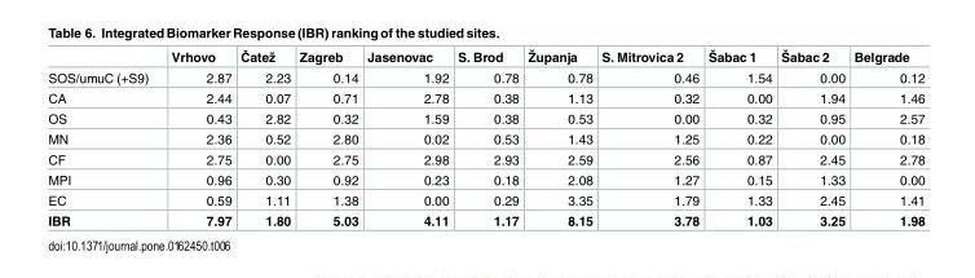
<table><thead><tr><td></td><td>Vrhovo</td><td>Čatež</td><td>Zagreb</td><td>Jasenovac</td><td>S. Brod</td><td>Županja</td><td>S. Mitrovica 2</td><td>Šabac 1</td><td>Šabac 2</td><td>Belgrade</td></tr></thead><tbody><tr><td>SOS/umuC (+S9)</td><td>2.87</td><td>2.23</td><td>0.14</td><td>1.92</td><td>0.78</td><td>0.78</td><td>0.46</td><td>1.54</td><td>0.00</td><td>0.12</td></tr><tr><td>CA</td><td>2.44</td><td>0.07</td><td>0.71</td><td>2.78</td><td>0.38</td><td>1.13</td><td>0.32</td><td>0.00</td><td>1.94</td><td>1.46</td></tr><tr><td>OS</td><td>0.43</td><td>2.82</td><td>0.32</td><td>1.59</td><td>0.38</td><td>0.53</td><td>0.00</td><td>0.32</td><td>0.95</td><td>2.57</td></tr><tr><td>MN</td><td>2.36</td><td>0.52</td><td>2.80</td><td>0.02</td><td>0.53</td><td>1.43</td><td>1.25</td><td>0.22</td><td>0.00</td><td>0.18</td></tr><tr><td>CF</td><td>2.75</td><td>0.00</td><td>2.75</td><td>2.98</td><td>2.93</td><td>2.59</td><td>2.56</td><td>0.87</td><td>2.45</td><td>2.78</td></tr><tr><td>MPI</td><td>0.96</td><td>0.30</td><td>0.92</td><td>0.23</td><td>0.18</td><td>2.08</td><td>1.27</td><td>0.15</td><td>1.33</td><td>0.00</td></tr><tr><td>EC</td><td>0.59</td><td>1.11</td><td>1.38</td><td>0.00</td><td>0.29</td><td>3.35</td><td>1.79</td><td>1.33</td><td>2.45</td><td>1.41</td></tr><tr><td>IBR</td><td>7.97</td><td>1.80</td><td>5.03</td><td>4.11</td><td>1.17</td><td>8.15</td><td>3.78</td><td>1.03</td><td>3.25</td><td>1.98</td></tr></tbody></table>